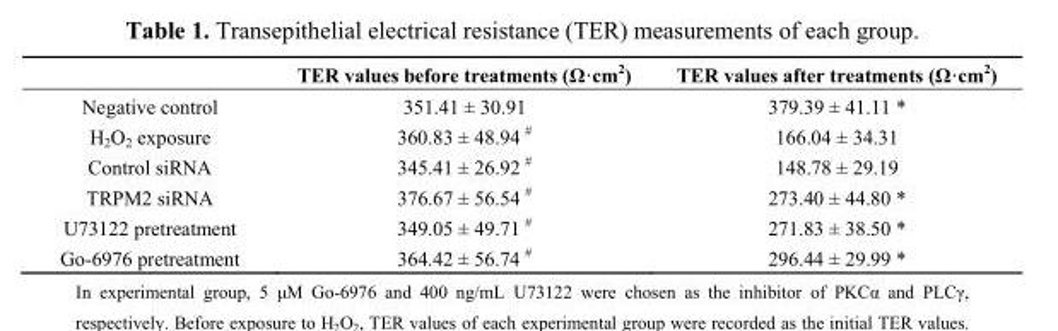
<table><thead><tr><td></td><td>TER values before treatments (Ω·cm<sup>2</sup>)</td><td>TER values after treatments (Ω·cm<sup>2</sup>)</td></tr></thead><tbody><tr><td>Negative control</td><td>351.41 ± 30.91</td><td>379.39 ± 41.11 *</td></tr><tr><td>H<sub>2</sub>O<sub>2</sub> exposure</td><td>360.83 ± 48.94 #</td><td>166.04 ± 34.31</td></tr><tr><td>Control siRNA</td><td>345.41 ± 26.92 #</td><td>148.78 ± 29.19</td></tr><tr><td>TRPM2 siRNA</td><td>376.67 ± 56.54 #</td><td>273.40 ± 44.80 *</td></tr><tr><td>U73122 pretreatment</td><td>349.05 ± 49.71 #</td><td>271.83 ± 38.50 *</td></tr><tr><td>Go-6976 pretreatment</td><td>364.42 ± 56.74 #</td><td>296.44 ± 29.99 *</td></tr></tbody></table>